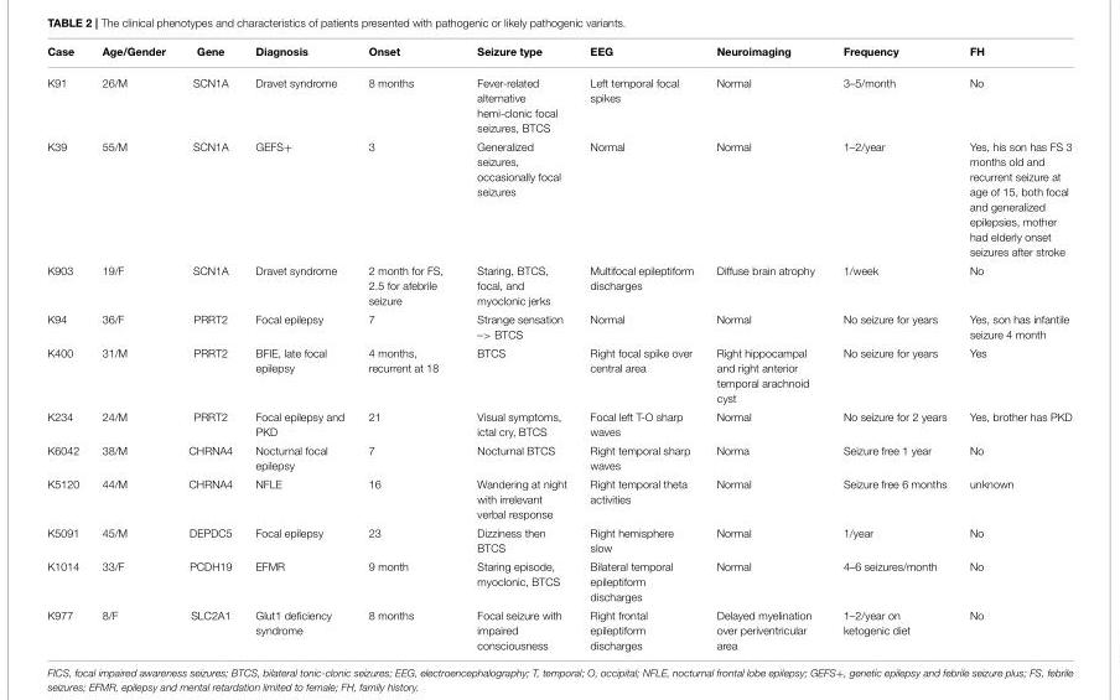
<table><thead><tr><td>Case</td><td>Age/Gender</td><td>Gene</td><td>Diagnosis</td><td>Onset</td><td>Seizure type</td><td>EEG</td><td>Neuroimaging</td><td>Frequency</td><td>FH</td></tr></thead><tbody><tr><td>K91</td><td>26/M</td><td>SCN1A</td><td>Dravet syndrome</td><td>8 months</td><td>Fever-related alternative hemi-clonic focal seizures, BTCS</td><td>Left temporal focal spikes</td><td>Normal</td><td>3–5/month</td><td>No</td></tr><tr><td>K39</td><td>55/M</td><td>SCN1A</td><td>GEFS+</td><td>3</td><td>Generalized seizures, occasionally focal seizures</td><td>Normal</td><td>Normal</td><td>1–2/year</td><td>Yes, his son has FS 3 months old and recurrent seizure at age of 15, both focal and generalized epilepsies, mother had elderly onset seizures after stroke</td></tr><tr><td>K903</td><td>19/F</td><td>SCN1A</td><td>Dravet syndrome</td><td>2 month for FS, 2.5 for afebrile seizure</td><td>Staring, BTCS, focal, and myoclonic jerks</td><td>Multifocal epileptiform discharges</td><td>Diffuse brain atrophy</td><td>1/week</td><td>No</td></tr><tr><td>K94</td><td>36/F</td><td>PRRT2</td><td>Focal epilepsy</td><td>7</td><td>Strange sensation –&gt; BTCS</td><td>Normal</td><td>Normal</td><td>No seizure for years</td><td>Yes, son has infantile seizure 4 month</td></tr><tr><td>K400</td><td>31/M</td><td>PRRT2</td><td>BFIE, late focal epilepsy</td><td>4 months, recurrent at 18</td><td>BTCS</td><td>Right focal spike over central area</td><td>Right hippocampal and right anterior temporal arachnoid cyst</td><td>No seizure for years</td><td>Yes</td></tr><tr><td>K234</td><td>24/M</td><td>PRRT2</td><td>Focal epilepsy and PKD</td><td>21</td><td>Visual symptoms, ictal cry, BTCS</td><td>Focal left T-O sharp waves</td><td>Normal</td><td>No seizure for 2 years</td><td>Yes, brother has PKD</td></tr><tr><td>K6042</td><td>38/M</td><td>CHRNA4</td><td>Nocturnal focal epilepsy</td><td>7</td><td>Nocturnal BTCS</td><td>Right temporal sharp waves</td><td>Norma</td><td>Seizure free 1 year</td><td>No</td></tr><tr><td>K5120</td><td>44/M</td><td>CHRNA4</td><td>NFLE</td><td>16</td><td>Wandering at night with irrelevant verbal response</td><td>Right temporal theta activities</td><td>Normal</td><td>Seizure free 6 months</td><td>unknown</td></tr><tr><td>K5091</td><td>45/M</td><td>DEPDC5</td><td>Focal epilepsy</td><td>23</td><td>Dizziness then BTCS</td><td>Right hemisphere slow</td><td>Normal</td><td>1/year</td><td>No</td></tr><tr><td>K1014</td><td>33/F</td><td>PCDH19</td><td>EFMR</td><td>9 month</td><td>Staring episode, myoclonic, BTCS</td><td>Bilateral temporal epileptiform discharges</td><td>Normal</td><td>4–6 seizures/month</td><td>No</td></tr><tr><td>K977</td><td>8/F</td><td>SLC2A1</td><td>Glut1 deficiency syndrome</td><td>8 months</td><td>Focal seizure with impaired consciousness</td><td>Right frontal epileptiform discharges</td><td>Delayed myelination over periventricular area</td><td>1–2/year on ketogenic diet</td><td>No</td></tr></tbody></table>